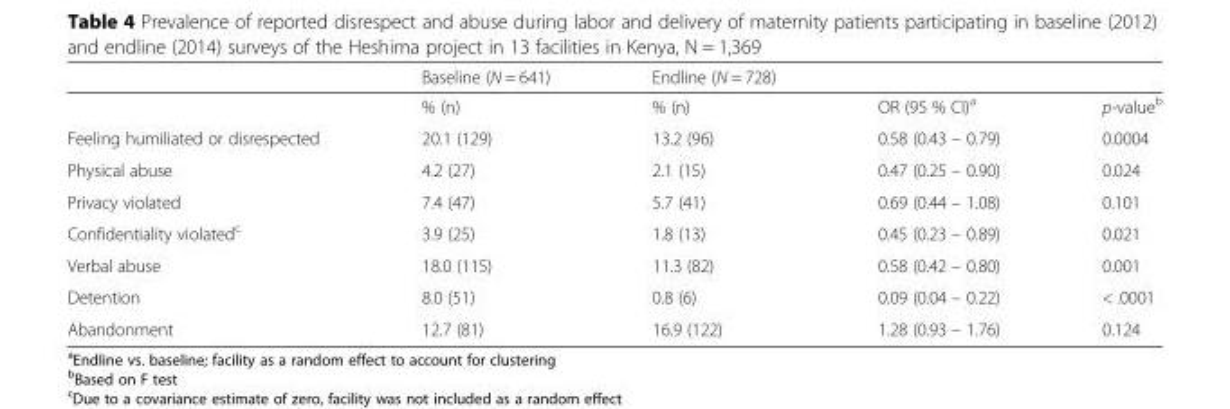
<table><thead><tr><td></td><td>Baseline (N = 641)</td><td>Endline (N = 728)</td><td></td><td></td></tr></thead><tbody><tr><td></td><td>% (n)</td><td>% (n)</td><td>OR (95 % CI)<sup>a</sup></td><td>p-value<sup>b</sup></td></tr><tr><td>Feeling humiliated or disrespected</td><td>20.1 (129)</td><td>13.2 (96)</td><td>0.58 (0.43 – 0.79)</td><td>0.0004</td></tr><tr><td>Physical abuse</td><td>4.2 (27)</td><td>2.1 (15)</td><td>0.47 (0.25 – 0.90)</td><td>0.024</td></tr><tr><td>Privacy violated</td><td>7.4 (47)</td><td>5.7 (41)</td><td>0.69 (0.44 – 1.08)</td><td>0.101</td></tr><tr><td>Confidentiality violated<sup>c</sup></td><td>3.9 (25)</td><td>1.8 (13)</td><td>0.45 (0.23 – 0.89)</td><td>0.021</td></tr><tr><td>Verbal abuse</td><td>18.0 (115)</td><td>11.3 (82)</td><td>0.58 (0.42 – 0.80)</td><td>0.001</td></tr><tr><td>Detention</td><td>8.0 (51)</td><td>0.8 (6)</td><td>0.09 (0.04 – 0.22)</td><td>&lt; .0001</td></tr><tr><td>Abandonment</td><td>12.7 (81)</td><td>16.9 (122)</td><td>1.28 (0.93 – 1.76)</td><td>0.124</td></tr></tbody></table>